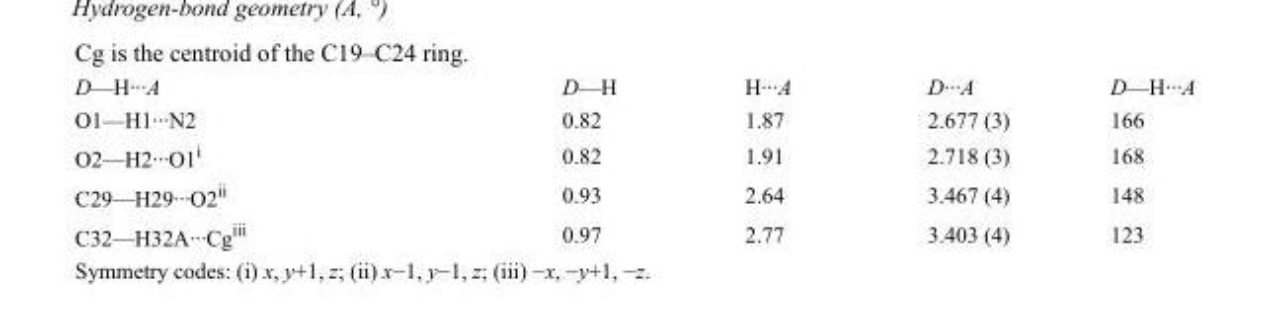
<table><tbody><tr><td>D—H···A</td><td>D—H</td><td>H···A</td><td>D···A</td><td>D—H···A</td></tr><tr><td>O1—H1···N2</td><td>0.82</td><td>1.87</td><td>2.677 (3)</td><td>166</td></tr><tr><td>O2—H2···O1<sup>i</sup></td><td>0.82</td><td>1.91</td><td>2.718 (3)</td><td>168</td></tr><tr><td>C29—H29···O2<sup>ii</sup></td><td>0.93</td><td>2.64</td><td>3.467 (4)</td><td>148</td></tr><tr><td>C32—H32A···Cg<sup>iii</sup></td><td>0.97</td><td>2.77</td><td>3.403 (4)</td><td>123</td></tr></tbody></table>